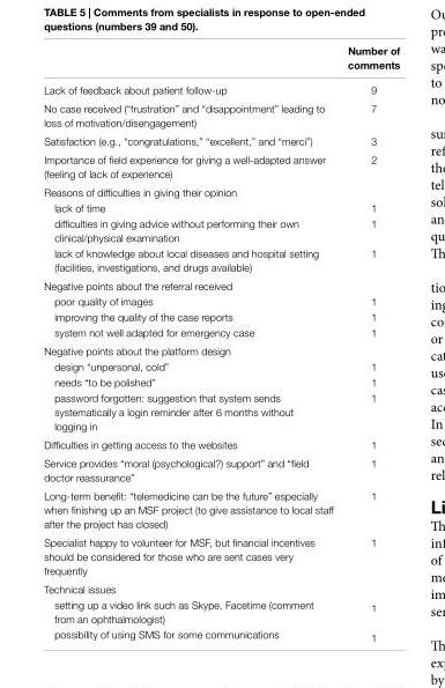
<table><thead><tr><td></td><td>number of comments</td></tr></thead><tbody><tr><td>Lack of feedback about patient follow-up</td><td>9</td></tr><tr><td>No case received (“frustration” and “disappointment” leading to loss of motivation/disengagement)</td><td>7</td></tr><tr><td>Satisfaction (e.g., “congratulations,” “excellent,” and “merci”)</td><td>3</td></tr><tr><td>Importance of field experience for giving a well-adapted answer (feeling of lack of experience)</td><td>2</td></tr><tr><td colspan="2">Reasons of difficulties in giving their opinion</td></tr><tr><td>lack of time</td><td>1</td></tr><tr><td>difficulties in giving advice without performing their own clinical/physical examination</td><td>1</td></tr><tr><td>lack of knowledge about local diseases and hospital setting (facilities, investigations, and drugs available)</td><td>1</td></tr><tr><td colspan="2">Negative points about the referral received</td></tr><tr><td>poor quality of images</td><td>1</td></tr><tr><td>improving the quality of the case reports</td><td>1</td></tr><tr><td>system not well adapted for emergency case</td><td>1</td></tr><tr><td colspan="2">Negative points about the platform design</td></tr><tr><td>design “unpersonal, cold”</td><td>1</td></tr><tr><td>needs “to be polished”</td><td>1</td></tr><tr><td>password forgotten: suggestion that system sends systematically a login reminder after 6 months without logging in</td><td>1</td></tr><tr><td>Difficulties in getting access to the websites</td><td>1</td></tr><tr><td>Service provides “moral (psychological?) support” and “field doctor reassurance”</td><td>1</td></tr><tr><td>Long-term benefit: “telemedicine can be the future” especially when finishing up an MSF project (to give assistance to local staff after the project has closed)</td><td>1</td></tr><tr><td>Specialist happy to volunteer for MSF, but financial incentives should be considered for those who are sent cases very frequently</td><td>1</td></tr><tr><td colspan="2">Technical issues</td></tr><tr><td>setting up a video link such as Skype, Facetime (comment from an ophthalmologist)</td><td>1</td></tr><tr><td>possibility of using SMS for some communications</td><td>1</td></tr></tbody></table>